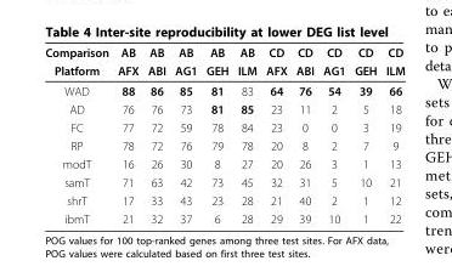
<table><thead><tr><td rowspan="2">Comparison Platform</td><td rowspan="2">AB AFX</td><td rowspan="2">AB ABI</td><td rowspan="2">AB AG1</td><td rowspan="2">AB GEH</td><td rowspan="2">AB ILM</td><td rowspan="2">CD AFX</td><td rowspan="2">CD ABI</td><td rowspan="2">CD AG1</td><td rowspan="2">CD GEH</td><td rowspan="2">CD ILM</td></tr><tr></tr></thead><tbody><tr><td>WAD</td><td>88</td><td>86</td><td>85</td><td>81</td><td>83</td><td>64</td><td>76</td><td>54</td><td>39</td><td>66</td></tr><tr><td>AD</td><td>76</td><td>76</td><td>73</td><td>81</td><td>85</td><td>23</td><td>11</td><td>2</td><td>5</td><td>18</td></tr><tr><td>FC</td><td>77</td><td>72</td><td>59</td><td>78</td><td>84</td><td>23</td><td>0</td><td>0</td><td>3</td><td>19</td></tr><tr><td>RP</td><td>78</td><td>72</td><td>76</td><td>79</td><td>78</td><td>20</td><td>8</td><td>2</td><td>7</td><td>9</td></tr><tr><td>modT</td><td>16</td><td>26</td><td>30</td><td>8</td><td>27</td><td>20</td><td>26</td><td>3</td><td>1</td><td>13</td></tr><tr><td>samT</td><td>71</td><td>63</td><td>42</td><td>73</td><td>45</td><td>32</td><td>31</td><td>5</td><td>10</td><td>21</td></tr><tr><td>shrT</td><td>17</td><td>33</td><td>43</td><td>23</td><td>28</td><td>21</td><td>40</td><td>2</td><td>1</td><td>12</td></tr><tr><td>ibmT</td><td>21</td><td>32</td><td>37</td><td>6</td><td>28</td><td>29</td><td>39</td><td>10</td><td>1</td><td>22</td></tr></tbody></table>